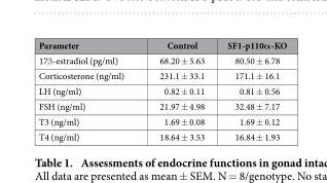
<table><thead><tr><td>Parameter</td><td>Control</td><td>SF1-p110α-KO</td></tr></thead><tbody><tr><td>17β -estradiol (pg/ml)</td><td>68.20 ± 5.63</td><td>80.50 ± 6.78</td></tr><tr><td>Corticosterone (ng/ml)</td><td>231.1 ± 33.1</td><td>171.1 ± 16.1</td></tr><tr><td>LH (ng/ml)</td><td>0.82 ± 0.11</td><td>0.81 ± 0.56</td></tr><tr><td>FSH (ng/ml)</td><td>21.97 ± 4.98</td><td>32.48 ± 7.17</td></tr><tr><td>T3 (ng/ml)</td><td>1.69 ± 0.08</td><td>1.69 ± 0.12</td></tr><tr><td>T4 (ng/ml)</td><td>18.64 ± 3.53</td><td>16.84 ± 1.93</td></tr></tbody></table>